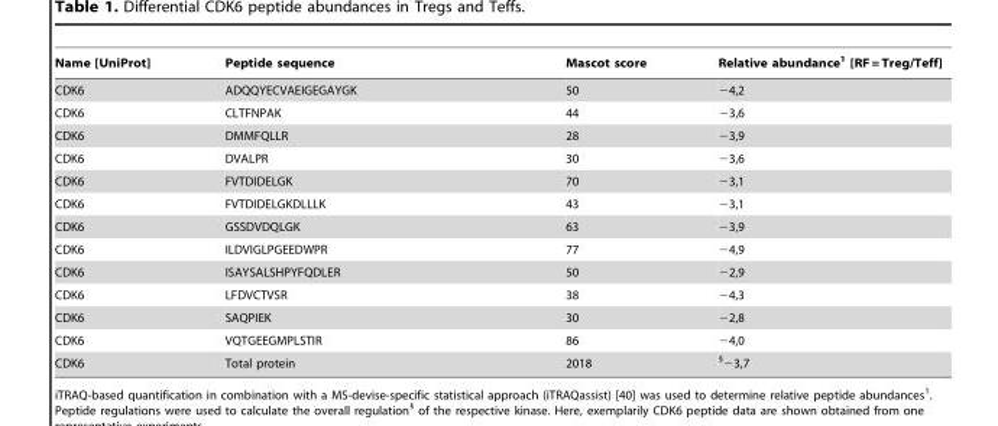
<table><thead><tr><td>Name [UniProt]</td><td>Peptide sequence</td><td>Mascot score</td><td>Relative abundance<sup>1</sup> [RF = Treg/Teff]</td></tr></thead><tbody><tr><td>CDK6</td><td>ADQQYECVAEIGEGAYGK</td><td>50</td><td>−4,2</td></tr><tr><td>CDK6</td><td>CLTFNPAK</td><td>44</td><td>−3,6</td></tr><tr><td>CDK6</td><td>DMMFQLLR</td><td>28</td><td>−3,9</td></tr><tr><td>CDK6</td><td>DVALPR</td><td>30</td><td>−3,6</td></tr><tr><td>CDK6</td><td>FVTDIDELGK</td><td>70</td><td>−3,1</td></tr><tr><td>CDK6</td><td>FVTDIDELGKDLLLK</td><td>43</td><td>−3,1</td></tr><tr><td>CDK6</td><td>GSSDVDQLGK</td><td>63</td><td>−3,9</td></tr><tr><td>CDK6</td><td>ILDVIGLPGEEDWPR</td><td>77</td><td>−4,9</td></tr><tr><td>CDK6</td><td>ISAYSALSHPYFQDLER</td><td>50</td><td>−2,9</td></tr><tr><td>CDK6</td><td>LFDVCTVSR</td><td>38</td><td>−4,3</td></tr><tr><td>CDK6</td><td>SAQPIEK</td><td>30</td><td>−2,8</td></tr><tr><td>CDK6</td><td>VQTGEEGMPLSTIR</td><td>86</td><td>−4,0</td></tr><tr><td>CDK6</td><td>Total protein</td><td>2018</td><td><sup>§</sup>−3,7</td></tr></tbody></table>